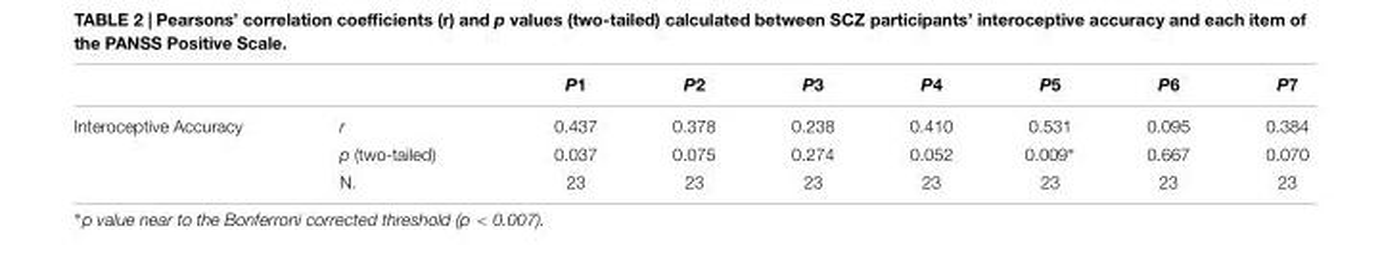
<table><thead><tr><td></td><td></td><td>P1</td><td>P2</td><td>P3</td><td>P4</td><td>P5</td><td>P6</td><td>P7</td></tr></thead><tbody><tr><td rowspan="3">Interoceptive Accuracy</td><td>r</td><td>0.437</td><td>0.378</td><td>0.238</td><td>0.410</td><td>0.531</td><td>0.095</td><td>0.384</td></tr><tr><td>p (two-tailed)</td><td>0.037</td><td>0.075</td><td>0.274</td><td>0.052</td><td>0.009∗</td><td>0.667</td><td>0.070</td></tr><tr><td>N.</td><td>23</td><td>23</td><td>23</td><td>23</td><td>23</td><td>23</td><td>23</td></tr></tbody></table>